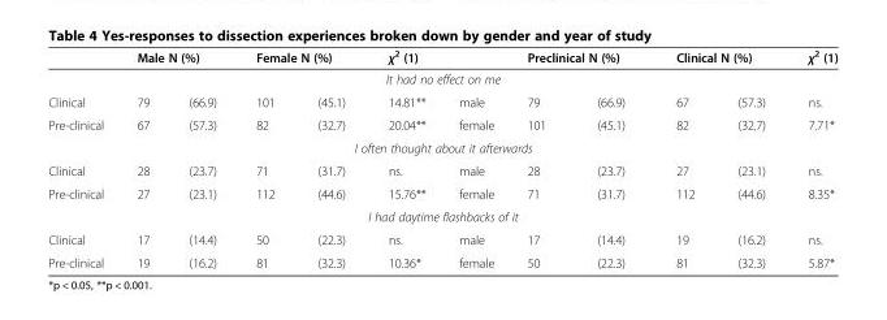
<table><thead><tr><td></td><td colspan="2">Male N (%)</td><td colspan="2">Female N (%)</td><td>χ<sup>2</sup> (1)</td><td></td><td colspan="2">Preclinical N (%)</td><td colspan="2">Clinical N (%)</td><td>χ<sup>2</sup> (1)</td></tr><tr><td colspan="12">It had no effect on me</td></tr><tr><td>Clinical</td><td>79</td><td>(66.9)</td><td>101</td><td>(45.1)</td><td>14.81**</td><td>male</td><td>79</td><td>(66.9)</td><td>67</td><td>(57.3)</td><td>ns.</td></tr></thead><tbody><tr><td>Pre-clinical</td><td>67</td><td>(57.3)</td><td>82</td><td>(32.7)</td><td>20.04**</td><td>female</td><td>101</td><td>(45.1)</td><td>82</td><td>(32.7)</td><td>7.71*</td></tr><tr><td colspan="12">I often thought about it afterwards</td></tr><tr><td>Clinical</td><td>28</td><td>(23.7)</td><td>71</td><td>(31.7)</td><td>ns.</td><td>male</td><td>28</td><td>(23.7)</td><td>27</td><td>(23.1)</td><td>ns.</td></tr><tr><td>Pre-clinical</td><td>27</td><td>(23.1)</td><td>112</td><td>(44.6)</td><td>15.76**</td><td>female</td><td>71</td><td>(31.7)</td><td>112</td><td>(44.6)</td><td>8.35*</td></tr><tr><td colspan="12">I had daytime flashbacks of it</td></tr><tr><td>Clinical</td><td>17</td><td>(14.4)</td><td>50</td><td>(22.3)</td><td>ns.</td><td>male</td><td>17</td><td>(14.4)</td><td>19</td><td>(16.2)</td><td>ns.</td></tr><tr><td>Pre-clinical</td><td>19</td><td>(16.2)</td><td>81</td><td>(32.3)</td><td>10.36*</td><td>female</td><td>50</td><td>(22.3)</td><td>81</td><td>(32.3)</td><td>5.87*</td></tr></tbody></table>